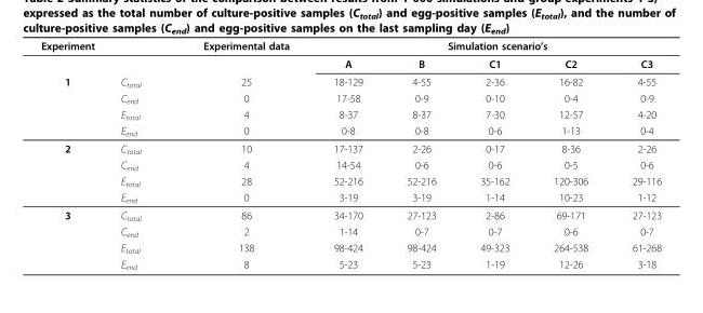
<table><thead><tr><td rowspan="2">Experiment</td><td rowspan="2"></td><td rowspan="2">Experimental data</td><td colspan="5">Simulation scenario’s</td></tr><tr><td>A</td><td>B</td><td>C1</td><td>C2</td><td>C3</td></tr></thead><tbody><tr><td rowspan="4">1</td><td>C<sub>total</sub></td><td>25</td><td>18-129</td><td>4-55</td><td>2-36</td><td>16-82</td><td>4-55</td></tr><tr><td>C<sub>end</sub></td><td>0</td><td>17-58</td><td>0-9</td><td>0-10</td><td>0-4</td><td>0-9</td></tr><tr><td>E<sub>total</sub></td><td>4</td><td>8-37</td><td>8-37</td><td>7-30</td><td>12-57</td><td>4-20</td></tr><tr><td>E<sub>end</sub></td><td>0</td><td>0-8</td><td>0-8</td><td>0-6</td><td>1-13</td><td>0-4</td></tr><tr><td rowspan="4">2</td><td>C<sub>total</sub></td><td>10</td><td>17-137</td><td>2-26</td><td>0-17</td><td>8-36</td><td>2-26</td></tr><tr><td>C<sub>end</sub></td><td>4</td><td>14-54</td><td>0-6</td><td>0-6</td><td>0-5</td><td>0-6</td></tr><tr><td>E<sub>total</sub></td><td>28</td><td>52-216</td><td>52-216</td><td>35-162</td><td>120-306</td><td>29-116</td></tr><tr><td>E<sub>end</sub></td><td>0</td><td>3-19</td><td>3-19</td><td>1-14</td><td>10-23</td><td>1-12</td></tr><tr><td rowspan="4">3</td><td>C<sub>total</sub></td><td>86</td><td>34-170</td><td>27-123</td><td>2-86</td><td>69-171</td><td>27-123</td></tr><tr><td>C<sub>end</sub></td><td>2</td><td>1-14</td><td>0-7</td><td>0-7</td><td>0-6</td><td>0-7</td></tr><tr><td>E<sub>total</sub></td><td>138</td><td>98-424</td><td>98-424</td><td>49-323</td><td>264-538</td><td>61-268</td></tr><tr><td>E<sub>end</sub></td><td>8</td><td>5-23</td><td>5-23</td><td>1-19</td><td>12-26</td><td>3-18</td></tr></tbody></table>